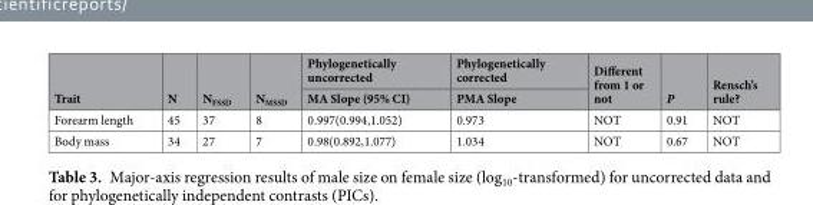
<table><thead><tr><td rowspan="2">Trait</td><td rowspan="2">N</td><td rowspan="2">N<sub>FSSD</sub></td><td rowspan="2">N<sub>MSSD</sub></td><td rowspan="2">Phylogenetically uncorrected MA Slope (95% CI)</td><td rowspan="2">Phylogenetically corrected PMA Slope</td><td rowspan="2">Different from 1 or not</td><td rowspan="2">P</td><td rowspan="2">Rensch’s rule?</td></tr><tr></tr></thead><tbody><tr><td>Forearm length</td><td>45</td><td>37</td><td>8</td><td>0.997(0.994,1.052)</td><td>0.973</td><td>NOT</td><td>0.91</td><td>NOT</td></tr><tr><td>Body mass</td><td>34</td><td>27</td><td>7</td><td>0.98(0.892,1.077)</td><td>1.034</td><td>NOT</td><td>0.67</td><td>NOT</td></tr></tbody></table>